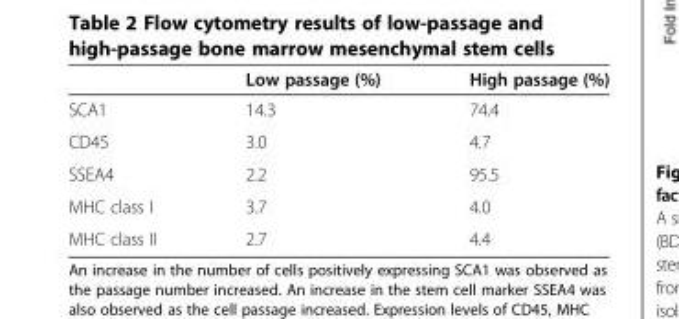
<table><thead><tr><td></td><td>Low passage (%)</td><td>High passage (%)</td></tr></thead><tbody><tr><td>SCA1</td><td>14.3</td><td>74.4</td></tr><tr><td>CD45</td><td>3.0</td><td>4.7</td></tr><tr><td>SSEA4</td><td>2.2</td><td>95.5</td></tr><tr><td>MHC class I</td><td>3.7</td><td>4.0</td></tr><tr><td>MHC class II</td><td>2.7</td><td>4.4</td></tr></tbody></table>